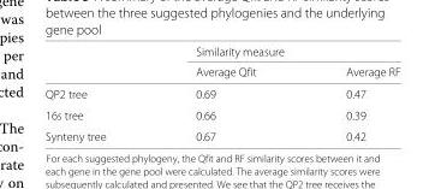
<table><thead><tr><td rowspan="2"></td><td colspan="2">Similarity measure</td></tr><tr><td>Average Qfit</td><td>Average RF</td></tr></thead><tbody><tr><td>QP2 tree</td><td>0.69</td><td>0.47</td></tr><tr><td>16s tree</td><td>0.66</td><td>0.39</td></tr><tr><td>Synteny tree</td><td>0.67</td><td>0.42</td></tr></tbody></table>